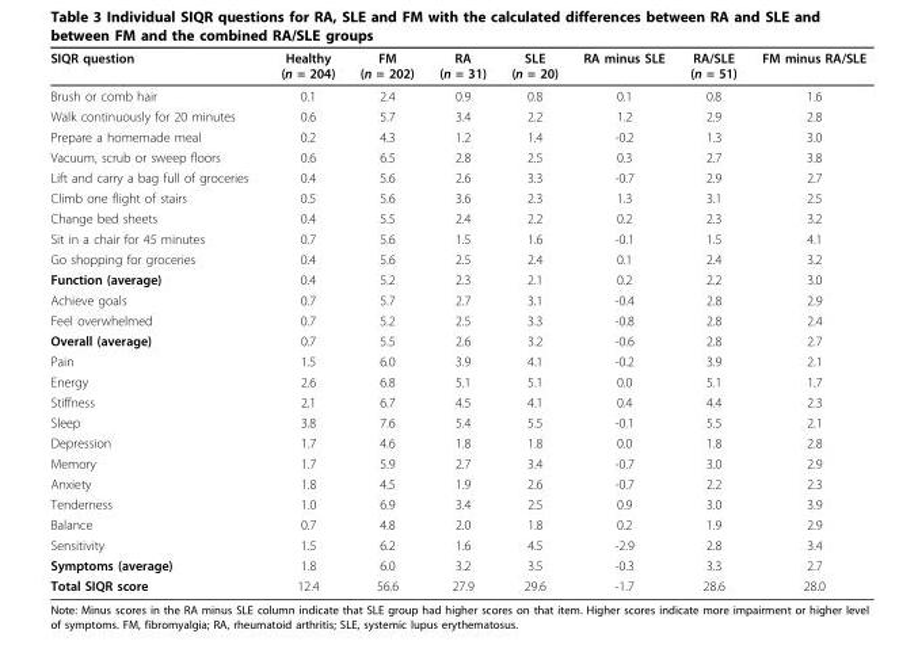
<table><thead><tr><td>SIQR question</td><td>Healthy (n = 204)</td><td>FM (n = 202)</td><td>RA (n = 31)</td><td>SLE (n = 20)</td><td>RA minus SLE</td><td>RA/SLE (n = 51)</td><td>FM minus RA/SLE</td></tr></thead><tbody><tr><td>Brush or comb hair</td><td>0.1</td><td>2.4</td><td>0.9</td><td>0.8</td><td>0.1</td><td>0.8</td><td>1.6</td></tr><tr><td>Walk continuously for 20 minutes</td><td>0.6</td><td>5.7</td><td>3.4</td><td>2.2</td><td>1.2</td><td>2.9</td><td>2.8</td></tr><tr><td>Prepare a homemade meal</td><td>0.2</td><td>4.3</td><td>1.2</td><td>1.4</td><td>-0.2</td><td>1.3</td><td>3.0</td></tr><tr><td>Vacuum, scrub or sweep floors</td><td>0.6</td><td>6.5</td><td>2.8</td><td>2.5</td><td>0.3</td><td>2.7</td><td>3.8</td></tr><tr><td>Lift and carry a bag full of groceries</td><td>0.4</td><td>5.6</td><td>2.6</td><td>3.3</td><td>-0.7</td><td>2.9</td><td>2.7</td></tr><tr><td>Climb one flight of stairs</td><td>0.5</td><td>5.6</td><td>3.6</td><td>2.3</td><td>1.3</td><td>3.1</td><td>2.5</td></tr><tr><td>Change bed sheets</td><td>0.4</td><td>5.5</td><td>2.4</td><td>2.2</td><td>0.2</td><td>2.3</td><td>3.2</td></tr><tr><td>Sit in a chair for 45 minutes</td><td>0.7</td><td>5.6</td><td>1.5</td><td>1.6</td><td>-0.1</td><td>1.5</td><td>4.1</td></tr><tr><td>Go shopping for groceries</td><td>0.4</td><td>5.6</td><td>2.5</td><td>2.4</td><td>0.1</td><td>2.4</td><td>3.2</td></tr><tr><td>Function (average)</td><td>0.4</td><td>5.2</td><td>2.3</td><td>2.1</td><td>0.2</td><td>2.2</td><td>3.0</td></tr><tr><td>Achieve goals</td><td>0.7</td><td>5.7</td><td>2.7</td><td>3.1</td><td>-0.4</td><td>2.8</td><td>2.9</td></tr><tr><td>Feel overwhelmed</td><td>0.7</td><td>5.2</td><td>2.5</td><td>3.3</td><td>-0.8</td><td>2.8</td><td>2.4</td></tr><tr><td>Overall (average)</td><td>0.7</td><td>5.5</td><td>2.6</td><td>3.2</td><td>-0.6</td><td>2.8</td><td>2.7</td></tr><tr><td>Pain</td><td>1.5</td><td>6.0</td><td>3.9</td><td>4.1</td><td>-0.2</td><td>3.9</td><td>2.1</td></tr><tr><td>Energy</td><td>2.6</td><td>6.8</td><td>5.1</td><td>5.1</td><td>0.0</td><td>5.1</td><td>1.7</td></tr><tr><td>Stiffness</td><td>2.1</td><td>6.7</td><td>4.5</td><td>4.1</td><td>0.4</td><td>4.4</td><td>2.3</td></tr><tr><td>Sleep</td><td>3.8</td><td>7.6</td><td>5.4</td><td>5.5</td><td>-0.1</td><td>5.5</td><td>2.1</td></tr><tr><td>Depression</td><td>1.7</td><td>4.6</td><td>1.8</td><td>1.8</td><td>0.0</td><td>1.8</td><td>2.8</td></tr><tr><td>Memory</td><td>1.7</td><td>5.9</td><td>2.7</td><td>3.4</td><td>-0.7</td><td>3.0</td><td>2.9</td></tr><tr><td>Anxiety</td><td>1.8</td><td>4.5</td><td>1.9</td><td>2.6</td><td>-0.7</td><td>2.2</td><td>2.3</td></tr><tr><td>Tenderness</td><td>1.0</td><td>6.9</td><td>3.4</td><td>2.5</td><td>0.9</td><td>3.0</td><td>3.9</td></tr><tr><td>Balance</td><td>0.7</td><td>4.8</td><td>2.0</td><td>1.8</td><td>0.2</td><td>1.9</td><td>2.9</td></tr><tr><td>Sensitivity</td><td>1.5</td><td>6.2</td><td>1.6</td><td>4.5</td><td>-2.9</td><td>2.8</td><td>3.4</td></tr><tr><td>Symptoms (average)</td><td>1.8</td><td>6.0</td><td>3.2</td><td>3.5</td><td>-0.3</td><td>3.3</td><td>2.7</td></tr><tr><td>Total SIQR score</td><td>12.4</td><td>56.6</td><td>27.9</td><td>29.6</td><td>-1.7</td><td>28.6</td><td>28.0</td></tr></tbody></table>